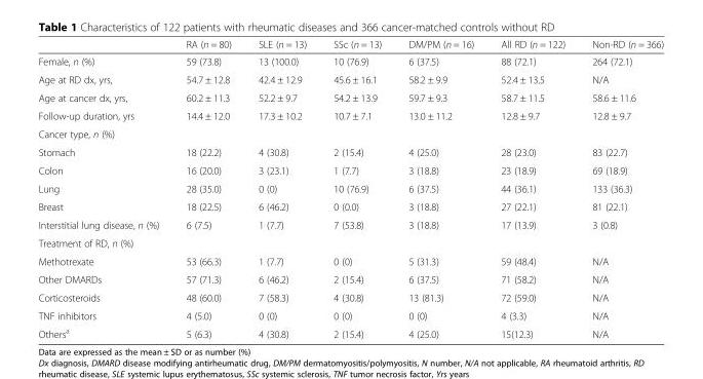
<table><thead><tr><td></td><td>RA (n = 80)</td><td>SLE (n = 13)</td><td>SSc (n = 13)</td><td>DM/PM (n = 16)</td><td>All RD (n = 122)</td><td>Non-RD (n = 366)</td></tr></thead><tbody><tr><td>Female, n (%)</td><td>59 (73.8)</td><td>13 (100.0)</td><td>10 (76.9)</td><td>6 (37.5)</td><td>88 (72.1)</td><td>264 (72.1)</td></tr><tr><td>Age at RD dx, yrs,</td><td>54.7 ± 12.8</td><td>42.4 ± 12.9</td><td>45.6 ± 16.1</td><td>58.2 ± 9.9</td><td>52.4 ± 13.5</td><td>N/A</td></tr><tr><td>Age at cancer dx, yrs,</td><td>60.2 ± 11.3</td><td>52.2 ± 9.7</td><td>54.2 ± 13.9</td><td>59.7 ± 9.3</td><td>58.7 ± 11.5</td><td>58.6 ± 11.6</td></tr><tr><td>Follow-up duration, yrs</td><td>14.4 ± 12.0</td><td>17.3 ± 10.2</td><td>10.7 ± 7.1</td><td>13.0 ± 11.2</td><td>12.8 ± 9.7</td><td>12.8 ± 9.7</td></tr><tr><td colspan="7">Cancer type, n (%)</td></tr><tr><td>Stomach</td><td>18 (22.2)</td><td>4 (30.8)</td><td>2 (15.4)</td><td>4 (25.0)</td><td>28 (23.0)</td><td>83 (22.7)</td></tr><tr><td>Colon</td><td>16 (20.0)</td><td>3 (23.1)</td><td>1 (7.7)</td><td>3 (18.8)</td><td>23 (18.9)</td><td>69 (18.9)</td></tr><tr><td>Lung</td><td>28 (35.0)</td><td>0 (0)</td><td>10 (76.9)</td><td>6 (37.5)</td><td>44 (36.1)</td><td>133 (36.3)</td></tr><tr><td>Breast</td><td>18 (22.5)</td><td>6 (46.2)</td><td>0 (0.0)</td><td>3 (18.8)</td><td>27 (22.1)</td><td>81 (22.1)</td></tr><tr><td>Interstitial lung disease, n (%)</td><td>6 (7.5)</td><td>1 (7.7)</td><td>7 (53.8)</td><td>3 (18.8)</td><td>17 (13.9)</td><td>3 (0.8)</td></tr><tr><td colspan="7">Treatment of RD, n (%)</td></tr><tr><td>Methotrexate</td><td>53 (66.3)</td><td>1 (7.7)</td><td>0 (0)</td><td>5 (31.3)</td><td>59 (48.4)</td><td>N/A</td></tr><tr><td>Other DMARDs</td><td>57 (71.3)</td><td>6 (46.2)</td><td>2 (15.4)</td><td>6 (37.5)</td><td>71 (58.2)</td><td>N/A</td></tr><tr><td>Corticosteroids</td><td>48 (60.0)</td><td>7 (58.3)</td><td>4 (30.8)</td><td>13 (81.3)</td><td>72 (59.0)</td><td>N/A</td></tr><tr><td>TNF inhibitors</td><td>4 (5.0)</td><td>0 (0)</td><td>0 (0)</td><td>0 (0)</td><td>4 (3.3)</td><td>N/A</td></tr><tr><td>Others<sup>a</sup></td><td>5 (6.3)</td><td>4 (30.8)</td><td>2 (15.4)</td><td>4 (25.0)</td><td>15(12.3)</td><td>N/A</td></tr></tbody></table>